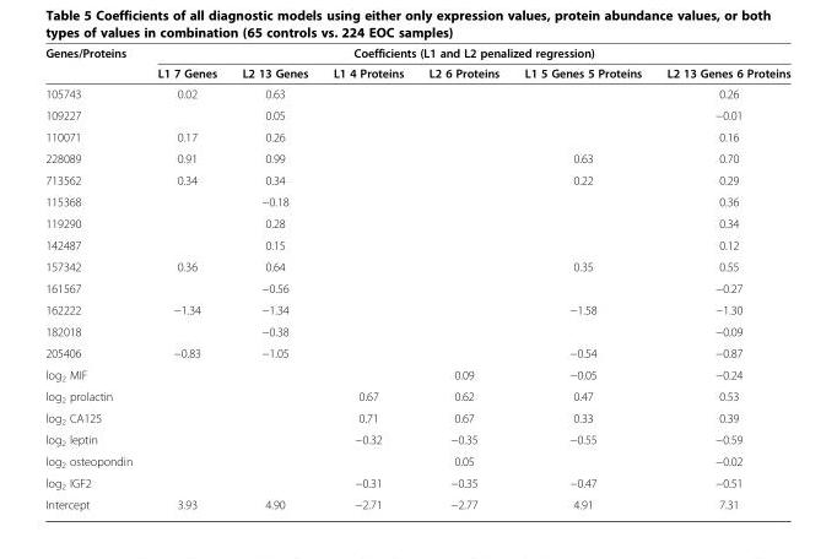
<table><thead><tr><td rowspan="2">Genes/Proteins</td><td colspan="6">Coefficients (L1 and L2 penalized regression)</td></tr><tr><td>L1 7 Genes</td><td>L2 13 Genes</td><td>L1 4 Proteins</td><td>L2 6 Proteins</td><td>L1 5 Genes 5 Proteins</td><td>L2 13 Genes 6 Proteins</td></tr></thead><tbody><tr><td>105743</td><td>0.02</td><td>0.63</td><td></td><td></td><td></td><td>0.26</td></tr><tr><td>109227</td><td></td><td>0.05</td><td></td><td></td><td></td><td>−0.01</td></tr><tr><td>110071</td><td>0.17</td><td>0.26</td><td></td><td></td><td></td><td>0.16</td></tr><tr><td>228089</td><td>0.91</td><td>0.99</td><td></td><td></td><td>0.63</td><td>0.70</td></tr><tr><td>713562</td><td>0.34</td><td>0.34</td><td></td><td></td><td>0.22</td><td>0.29</td></tr><tr><td>115368</td><td></td><td>−0.18</td><td></td><td></td><td></td><td>0.36</td></tr><tr><td>119290</td><td></td><td>0.28</td><td></td><td></td><td></td><td>0.34</td></tr><tr><td>142487</td><td></td><td>0.15</td><td></td><td></td><td></td><td>0.12</td></tr><tr><td>157342</td><td>0.36</td><td>0.64</td><td></td><td></td><td>0.35</td><td>0.55</td></tr><tr><td>161567</td><td></td><td>−0.56</td><td></td><td></td><td></td><td>−0.27</td></tr><tr><td>162222</td><td>−1.34</td><td>−1.34</td><td></td><td></td><td>−1.58</td><td>−1.30</td></tr><tr><td>182018</td><td></td><td>−0.38</td><td></td><td></td><td></td><td>−0.09</td></tr><tr><td>205406</td><td>−0.83</td><td>−1.05</td><td></td><td></td><td>−0.54</td><td>−0.87</td></tr><tr><td>log<sub>2</sub> MIF</td><td></td><td></td><td></td><td>0.09</td><td>−0.05</td><td>−0.24</td></tr><tr><td>log<sub>2</sub> prolactin</td><td></td><td></td><td>0.67</td><td>0.62</td><td>0.47</td><td>0.53</td></tr><tr><td>log<sub>2</sub> CA125</td><td></td><td></td><td>0.71</td><td>0.67</td><td>0.33</td><td>0.39</td></tr><tr><td>log<sub>2</sub> leptin</td><td></td><td></td><td>−0.32</td><td>−0.35</td><td>−0.55</td><td>−0.59</td></tr><tr><td>log<sub>2</sub> osteopondin</td><td></td><td></td><td></td><td>0.05</td><td></td><td>−0.02</td></tr><tr><td>log<sub>2</sub> IGF2</td><td></td><td></td><td>−0.31</td><td>−0.35</td><td>−0.47</td><td>−0.51</td></tr><tr><td>Intercept</td><td>3.93</td><td>4.90</td><td>−2.71</td><td>−2.77</td><td>4.91</td><td>7.31</td></tr></tbody></table>